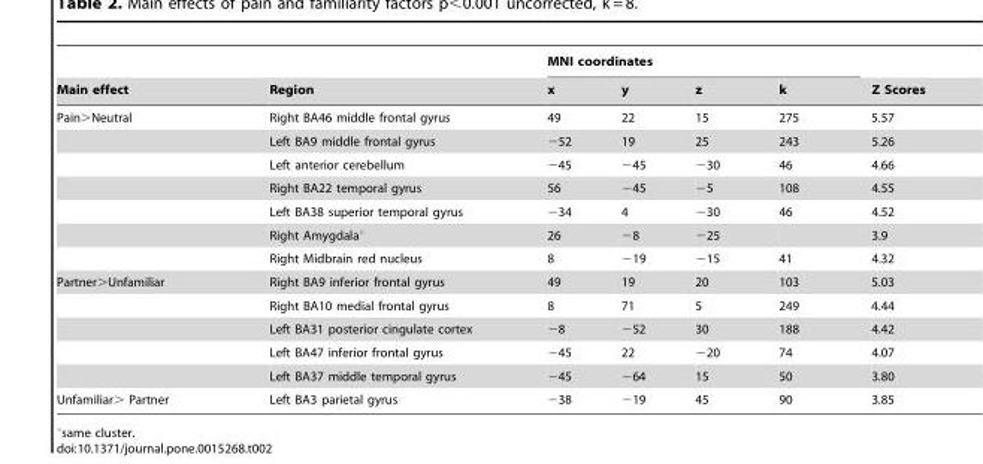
<table><thead><tr><td rowspan="2">Main effect</td><td rowspan="2">Region</td><td colspan="4">MNI coordinates</td><td rowspan="2">Z Scores</td></tr><tr><td>x</td><td>y</td><td>z</td><td>k</td></tr></thead><tbody><tr><td rowspan="7">Pain&gt;Neutral</td><td>Right BA46 middle frontal gyrus</td><td>49</td><td>22</td><td>15</td><td>275</td><td>5.57</td></tr><tr><td>Left BA9 middle frontal gyrus</td><td>−52</td><td>19</td><td>25</td><td>243</td><td>5.26</td></tr><tr><td>Left anterior cerebellum</td><td>−45</td><td>−45</td><td>−30</td><td>46</td><td>4.66</td></tr><tr><td>Right BA22 temporal gyrus</td><td>56</td><td>−45</td><td>−5</td><td>108</td><td>4.55</td></tr><tr><td>Left BA38 superior temporal gyrus</td><td>−34</td><td>4</td><td>−30</td><td>46</td><td>4.52</td></tr><tr><td>Right Amygdala°</td><td>26</td><td>−8</td><td>−25</td><td></td><td>3.9</td></tr><tr><td>Right Midbrain red nucleus</td><td>8</td><td>−19</td><td>−15</td><td>41</td><td>4.32</td></tr><tr><td rowspan="5">Partner&gt;Unfamiliar</td><td>Right BA9 inferior frontal gyrus</td><td>49</td><td>19</td><td>20</td><td>103</td><td>5.03</td></tr><tr><td>Right BA10 medial frontal gyrus</td><td>8</td><td>71</td><td>5</td><td>249</td><td>4.44</td></tr><tr><td>Left BA31 posterior cingulate cortex</td><td>−8</td><td>−52</td><td>30</td><td>188</td><td>4.42</td></tr><tr><td>Left BA47 inferior frontal gyrus</td><td>−45</td><td>22</td><td>−20</td><td>74</td><td>4.07</td></tr><tr><td>Left BA37 middle temporal gyrus</td><td>−45</td><td>−64</td><td>15</td><td>50</td><td>3.80</td></tr><tr><td>Unfamiliar&gt; Partner</td><td>Left BA3 parietal gyrus</td><td>−38</td><td>−19</td><td>45</td><td>90</td><td>3.85</td></tr></tbody></table>